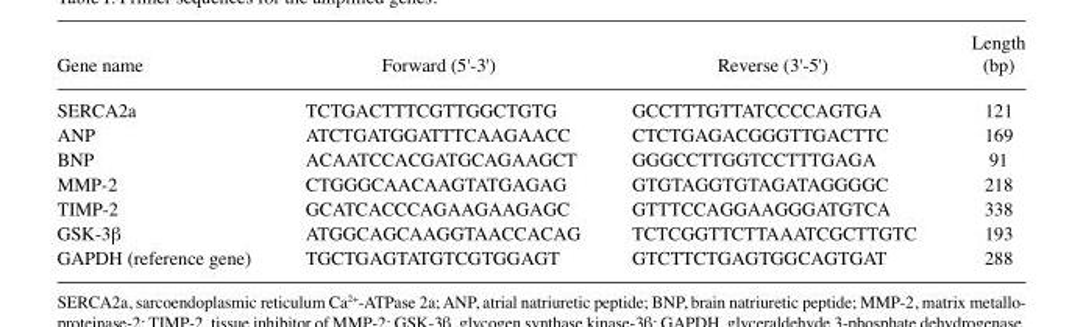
<table><thead><tr><td>Gene name</td><td>Forward (5&#x27;-3&#x27;)</td><td>Reverse (3&#x27;-5&#x27;)</td><td>(bp)</td></tr></thead><tbody><tr><td>SERCA2a</td><td>TCTGACTTTCGTTGGCTGTG</td><td>GCCTTTGTTATCCCCAGTGA</td><td>121</td></tr><tr><td>ANP</td><td>ATCTGATGGATTTCAAGAACC</td><td>CTCTGAGACGGGTTGACTTC</td><td>169</td></tr><tr><td>BNP</td><td>ACAATCCACGATGCAGAAGCT</td><td>GGGCCTTGGTCCTTTGAGA</td><td>91</td></tr><tr><td>MMP-2</td><td>CTGGGCAACAAGTATGAGAG</td><td>GTGTAGGTGTAGATAGGGGC</td><td>218</td></tr><tr><td>TIMP-2</td><td>GCATCACCCAGAAGAAGAGC</td><td>GTTTCCAGGAAGGGATGTCA</td><td>338</td></tr><tr><td>GSK-3β</td><td>ATGGCAGCAAGGTAACCACAG</td><td>TCTCGGTTCTTAAATCGCTTGTC</td><td>193</td></tr><tr><td>GAPDH (reference gene)</td><td>TGCTGAGTATGTCGTGGAGT</td><td>GTCTTCTGAGTGGCAGTGAT</td><td>288</td></tr></tbody></table>